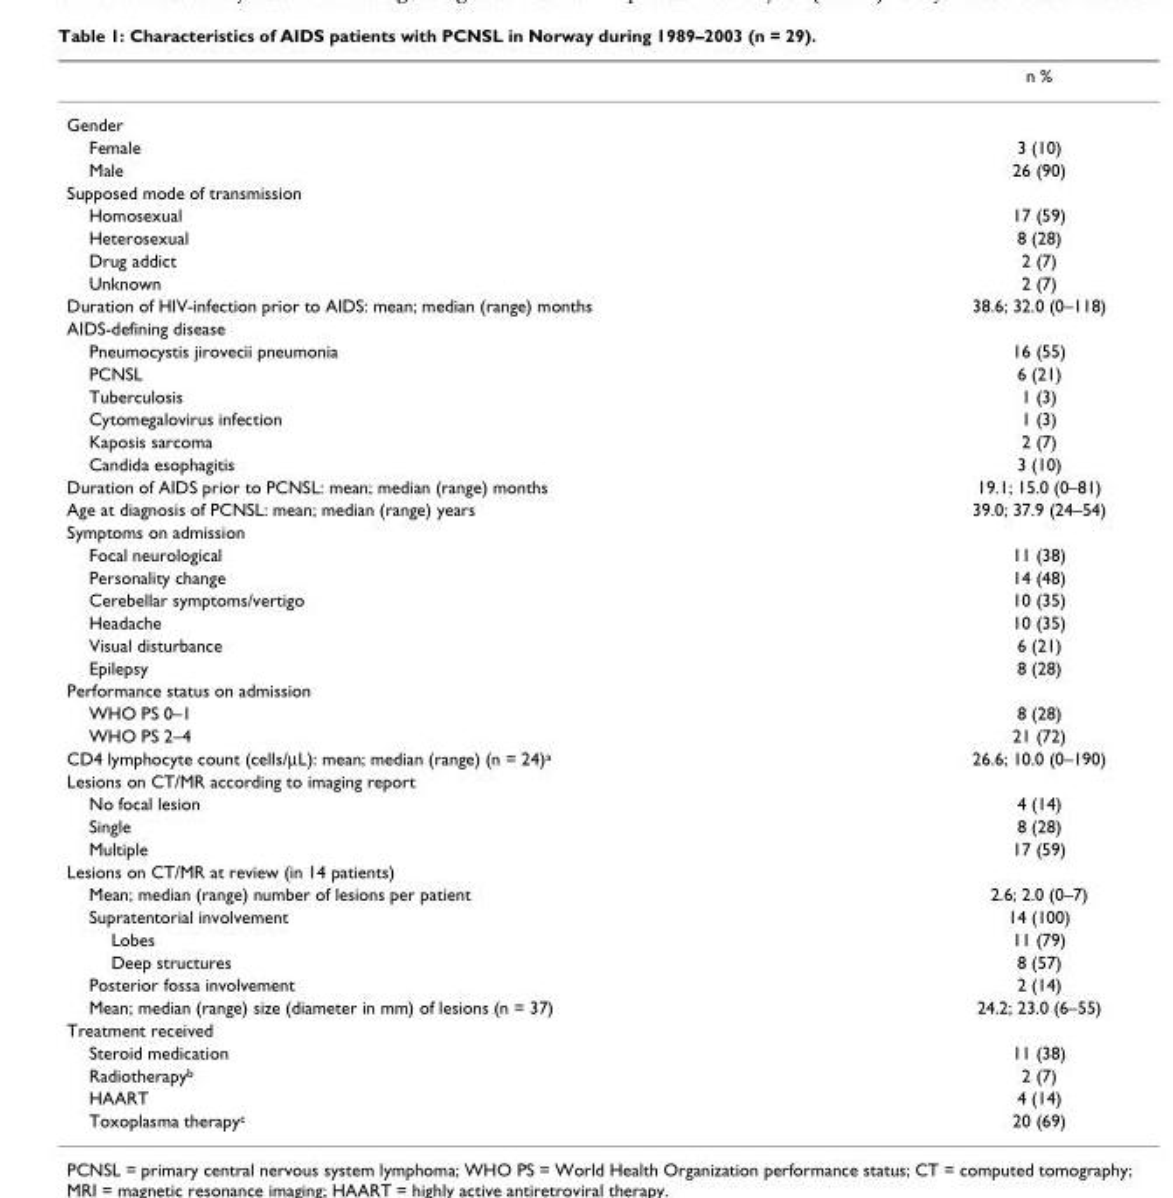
<table><thead><tr><td></td><td>n %</td></tr></thead><tbody><tr><td colspan="2">Gender</td></tr><tr><td>Female</td><td>3 (10)</td></tr><tr><td>Male</td><td>26 (90)</td></tr><tr><td colspan="2">Supposed mode of transmission</td></tr><tr><td>Homosexual</td><td>17 (59)</td></tr><tr><td>Heterosexual</td><td>8 (28)</td></tr><tr><td>Drug addict</td><td>2 (7)</td></tr><tr><td>Unknown</td><td>2 (7)</td></tr><tr><td>Duration of HIV-infection prior to AIDS: mean; median (range) months</td><td>38.6; 32.0 (0–118)</td></tr><tr><td colspan="2">AIDS-defining disease</td></tr><tr><td>Pneumocystis jirovecii pneumonia</td><td>16 (55)</td></tr><tr><td>PCNSL</td><td>6 (21)</td></tr><tr><td>Tuberculosis</td><td>1 (3)</td></tr><tr><td>Cytomegalovirus infection</td><td>1 (3)</td></tr><tr><td>Kaposis sarcoma</td><td>2 (7)</td></tr><tr><td>Candida esophagitis</td><td>3 (10)</td></tr><tr><td>Duration of AIDS prior to PCNSL: mean; median (range) months</td><td>19.1; 15.0 (0–81)</td></tr><tr><td>Age at diagnosis of PCNSL: mean; median (range) years</td><td>39.0; 37.9 (24–54)</td></tr><tr><td colspan="2">Symptoms on admission</td></tr><tr><td>Focal neurological</td><td>11 (38)</td></tr><tr><td>Personality change</td><td>14 (48)</td></tr><tr><td>Cerebellar symptoms/vertigo</td><td>10 (35)</td></tr><tr><td>Headache</td><td>10 (35)</td></tr><tr><td>Visual disturbance</td><td>6 (21)</td></tr><tr><td>Epilepsy</td><td>8 (28)</td></tr><tr><td colspan="2">Performance status on admission</td></tr><tr><td>WHO PS 0–1</td><td>8 (28)</td></tr><tr><td>WHO PS 2–4</td><td>21 (72)</td></tr><tr><td>CD4 lymphocyte count (cells/μL): mean; median (range) (n = 24)<sup>a</sup></td><td>26.6; 10.0 (0–190)</td></tr><tr><td colspan="2">Lesions on CT/MR according to imaging report</td></tr><tr><td>No focal lesion</td><td>4 (14)</td></tr><tr><td>Single</td><td>8 (28)</td></tr><tr><td>Multiple</td><td>17 (59)</td></tr><tr><td colspan="2">Lesions on CT/MR at review (in 14 patients)</td></tr><tr><td>Mean; median (range) number of lesions per patient</td><td>2.6; 2.0 (0–7)</td></tr><tr><td>Supratentorial involvement</td><td>14 (100)</td></tr><tr><td>Lobes</td><td>11 (79)</td></tr><tr><td>Deep structures</td><td>8 (57)</td></tr><tr><td>Posterior fossa involvement</td><td>2 (14)</td></tr><tr><td>Mean; median (range) size (diameter in mm) of lesions (n = 37)</td><td>24.2; 23.0 (6–55)</td></tr><tr><td colspan="2">Treatment received</td></tr><tr><td>Steroid medication</td><td>11 (38)</td></tr><tr><td>Radiotherapy<sup>b</sup></td><td>2 (7)</td></tr><tr><td>HAART</td><td>4 (14)</td></tr><tr><td>Toxoplasma therapy<sup>c</sup></td><td>20 (69)</td></tr></tbody></table>